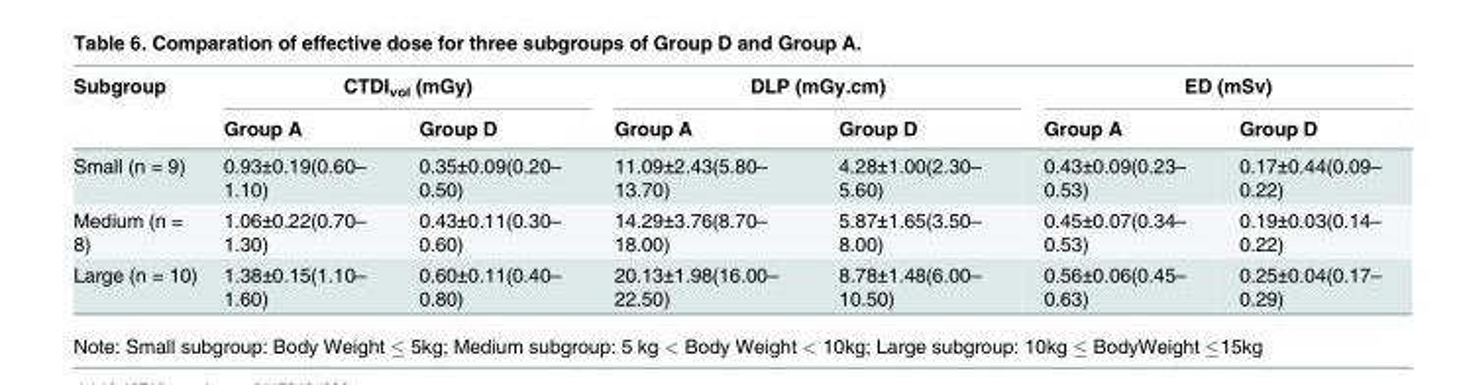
<table><thead><tr><td rowspan="2">Subgroup</td><td colspan="2">CTDI<sub>vol</sub> (mGy)</td><td colspan="2">DLP (mGy.cm)</td><td colspan="2">ED (mSv)</td></tr><tr><td>Group A</td><td>Group D</td><td>Group A</td><td>Group D</td><td>Group A</td><td>Group D</td></tr></thead><tbody><tr><td>Small (n = 9)</td><td>0.93±0.19(0.60– 1.10)</td><td>0.35±0.09(0.20– 0.50)</td><td>11.09±2.43(5.80– 13.70)</td><td>4.28±1.00(2.30– 5.60)</td><td>0.43±0.09(0.23– 0.53)</td><td>0.17±0.44(0.09– 0.22)</td></tr><tr><td>Medium (n = 8)</td><td>1.06±0.22(0.70– 1.30)</td><td>0.43±0.11(0.30– 0.60)</td><td>14.29±3.76(8.70– 18.00)</td><td>5.87±1.65(3.50– 8.00)</td><td>0.45±0.07(0.34– 0.53)</td><td>0.19±0.03(0.14– 0.22)</td></tr><tr><td>Large (n = 10)</td><td>1.38±0.15(1.10– 1.60)</td><td>0.60±0.11(0.40– 0.80)</td><td>20.13±1.98(16.00– 22.50)</td><td>8.78±1.48(6.00– 10.50)</td><td>0.56±0.06(0.45– 0.63)</td><td>0.25±0.04(0.17– 0.29)</td></tr></tbody></table>